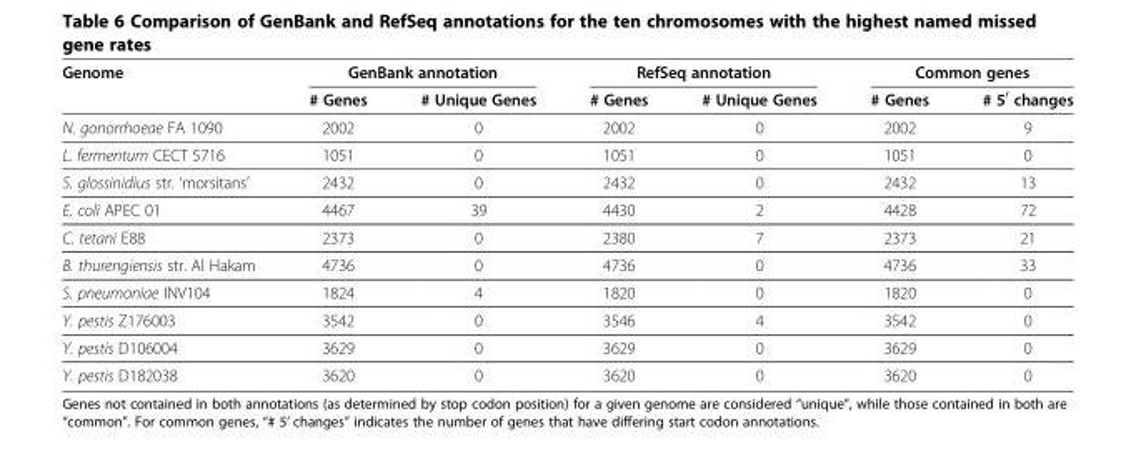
<table><thead><tr><td rowspan="2">Genome</td><td colspan="2">GenBank annotation</td><td colspan="2">RefSeq annotation</td><td colspan="2">Common genes</td></tr><tr><td># Genes</td><td># Unique Genes</td><td># Genes</td><td># Unique Genes</td><td># Genes</td><td># 5′ changes</td></tr></thead><tbody><tr><td>N. gonorrhoeae FA 1090</td><td>2002</td><td>0</td><td>2002</td><td>0</td><td>2002</td><td>9</td></tr><tr><td>L. fermentum CECT 5716</td><td>1051</td><td>0</td><td>1051</td><td>0</td><td>1051</td><td>0</td></tr><tr><td>S. glossinidius str. ‘morsitans’</td><td>2432</td><td>0</td><td>2432</td><td>0</td><td>2432</td><td>13</td></tr><tr><td>E. coli APEC 01</td><td>4467</td><td>39</td><td>4430</td><td>2</td><td>4428</td><td>72</td></tr><tr><td>C. tetani E88</td><td>2373</td><td>0</td><td>2380</td><td>7</td><td>2373</td><td>21</td></tr><tr><td>B. thurengiensis str. Al Hakam</td><td>4736</td><td>0</td><td>4736</td><td>0</td><td>4736</td><td>33</td></tr><tr><td>S. pneumoniae INV104</td><td>1824</td><td>4</td><td>1820</td><td>0</td><td>1820</td><td>0</td></tr><tr><td>Y. pestis Z176003</td><td>3542</td><td>0</td><td>3546</td><td>4</td><td>3542</td><td>0</td></tr><tr><td>Y. pestis D106004</td><td>3629</td><td>0</td><td>3629</td><td>0</td><td>3629</td><td>0</td></tr><tr><td>Y. pestis D182038</td><td>3620</td><td>0</td><td>3620</td><td>0</td><td>3620</td><td>0</td></tr></tbody></table>